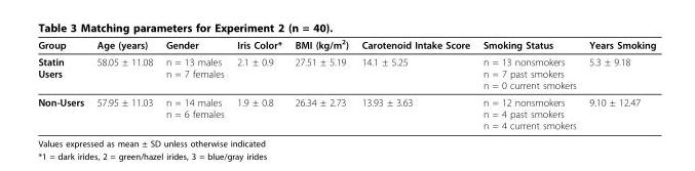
<table><thead><tr><td>Group</td><td>Age (years)</td><td>Gender</td><td>Iris Color*</td><td>BMI (kg/m<sup>2</sup>)</td><td>Carotenoid Intake Score</td><td>Smoking Status</td><td>Years Smoking</td></tr></thead><tbody><tr><td>Statin Users</td><td>58.05 ± 11.08</td><td>n = 13 males n = 7 females</td><td>2.1 ± 0.9</td><td>27.51 ± 5.19</td><td>14.1 ± 5.25</td><td>n = 13 nonsmokers n = 7 past smokers n = 0 current smokers</td><td>5.3 ± 9.18</td></tr><tr><td>Non-Users</td><td>57.95 ± 11.03</td><td>n = 14 males n = 6 females</td><td>1.9 ± 0.8</td><td>26.34 ± 2.73</td><td>13.93 ± 3.63</td><td>n = 12 nonsmokers n = 4 past smokers n = 4 current smokers</td><td>9.10 ± 12.47</td></tr></tbody></table>